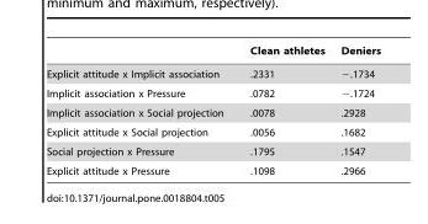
<table><thead><tr><td></td><td>Clean athletes</td><td>Deniers</td></tr></thead><tbody><tr><td>Explicit attitude x Implicit association</td><td>.2331</td><td>−.1734</td></tr><tr><td>Implicit association x Pressure</td><td>.0782</td><td>−.1724</td></tr><tr><td>Implicit association x Social projection</td><td>.0078</td><td>.2928</td></tr><tr><td>Explicit attitude x Social projection</td><td>.0056</td><td>.1682</td></tr><tr><td>Social projection x Pressure</td><td>.1795</td><td>.1547</td></tr><tr><td>Explicit attitude x Pressure</td><td>.1098</td><td>.2966</td></tr></tbody></table>